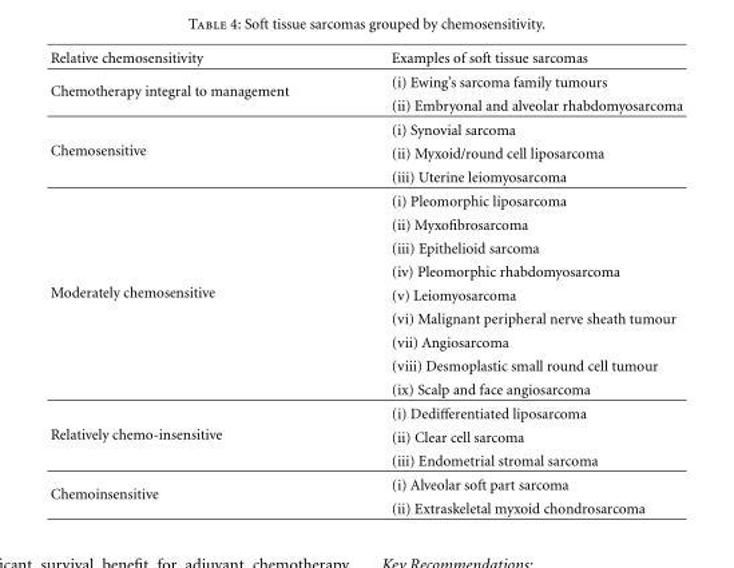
<table><thead><tr><td>Relative chemosensitivity</td><td>Examples of soft tissue sarcomas</td></tr></thead><tbody><tr><td rowspan="2">Chemotherapy integral to management</td><td>(i) Ewing’s sarcoma family tumours</td></tr><tr><td>(ii) Embryonal and alveolar rhabdomyosarcoma</td></tr><tr><td rowspan="3">Chemosensitive</td><td>(i) Synovial sarcoma</td></tr><tr><td>(ii) Myxoid/round cell liposarcoma</td></tr><tr><td>(iii) Uterine leiomyosarcoma</td></tr><tr><td rowspan="9">Moderately chemosensitive</td><td>(i) Pleomorphic liposarcoma</td></tr><tr><td>(ii) Myxofibrosarcoma</td></tr><tr><td>(iii) Epithelioid sarcoma</td></tr><tr><td>(iv) Pleomorphic rhabdomyosarcoma</td></tr><tr><td>(v) Leiomyosarcoma</td></tr><tr><td>(vi) Malignant peripheral nerve sheath tumour</td></tr><tr><td>(vii) Angiosarcoma</td></tr><tr><td>(viii) Desmoplastic small round cell tumour</td></tr><tr><td>(ix) Scalp and face angiosarcoma</td></tr><tr><td rowspan="3">Relatively chemo-insensitive</td><td>(i) Dedifferentiated liposarcoma</td></tr><tr><td>(ii) Clear cell sarcoma</td></tr><tr><td>(iii) Endometrial stromal sarcoma</td></tr><tr><td rowspan="2">Chemoinsensitive</td><td>(i) Alveolar soft part sarcoma</td></tr><tr><td>(ii) Extraskeletal myxoid chondrosarcoma</td></tr></tbody></table>